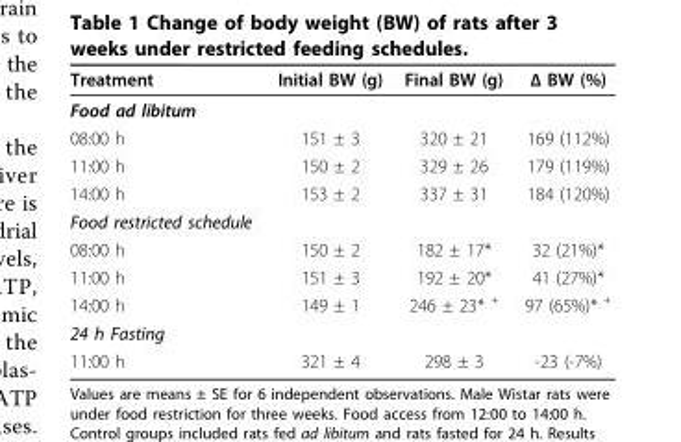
<table><thead><tr><td>Treatment</td><td>Initial BW (g)</td><td>Final BW (g)</td><td>Δ BW (%)</td></tr></thead><tbody><tr><td colspan="4">Food ad libitum</td></tr><tr><td>08:00 h</td><td>151 ± 3</td><td>320 ± 21</td><td>169 (112%)</td></tr><tr><td>11:00 h</td><td>150 ± 2</td><td>329 ± 26</td><td>179 (119%)</td></tr><tr><td>14:00 h</td><td>153 ± 2</td><td>337 ± 31</td><td>184 (120%)</td></tr><tr><td colspan="4">Food restricted schedule</td></tr><tr><td>08:00 h</td><td>150 ± 2</td><td>182 ± 17*</td><td>32 (21%)*</td></tr><tr><td>11:00 h</td><td>151 ± 3</td><td>192 ± 20*</td><td>41 (27%)*</td></tr><tr><td>14:00 h</td><td>149 ± 1</td><td>246 ± 23* <sup>+</sup></td><td>97 (65%)* <sup>+</sup></td></tr><tr><td colspan="4">24 h Fasting</td></tr><tr><td>11:00 h</td><td>321 ± 4</td><td>298 ± 3</td><td>-23 (-7%)</td></tr></tbody></table>